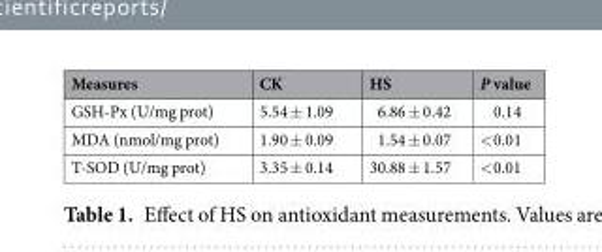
<table><thead><tr><td>Measures</td><td>CK</td><td>HS</td><td>P value</td></tr></thead><tbody><tr><td>GSH-Px (U/mg prot)</td><td>5.54 ± 1.09</td><td>6.86 ± 0.42</td><td>0.14</td></tr><tr><td>MDA (nmol/mg prot)</td><td>1.90 ± 0.09</td><td>1.54 ± 0.07</td><td>&lt;0.01</td></tr><tr><td>T-SOD (U/mg prot)</td><td>3.35 ± 0.14</td><td>30.88 ± 1.57</td><td>&lt;0.01</td></tr></tbody></table>